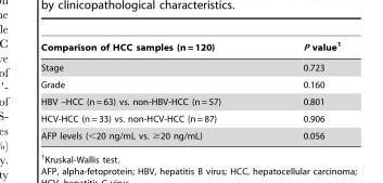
<table><thead><tr><td>Comparison of HCC samples (n = 120)</td><td>P value<sup>1</sup></td></tr></thead><tbody><tr><td>Stage</td><td>0.723</td></tr><tr><td>Grade</td><td>0.160</td></tr><tr><td>HBV –HCC (n = 63) vs. non-HBV-HCC (n = 57)</td><td>0.801</td></tr><tr><td>HCV-HCC (n = 33) vs. non-HCV-HCC (n = 87)</td><td>0.906</td></tr><tr><td>AFP levels (&lt;20 ng/mL vs. ≥20 ng/mL)</td><td>0.056</td></tr></tbody></table>